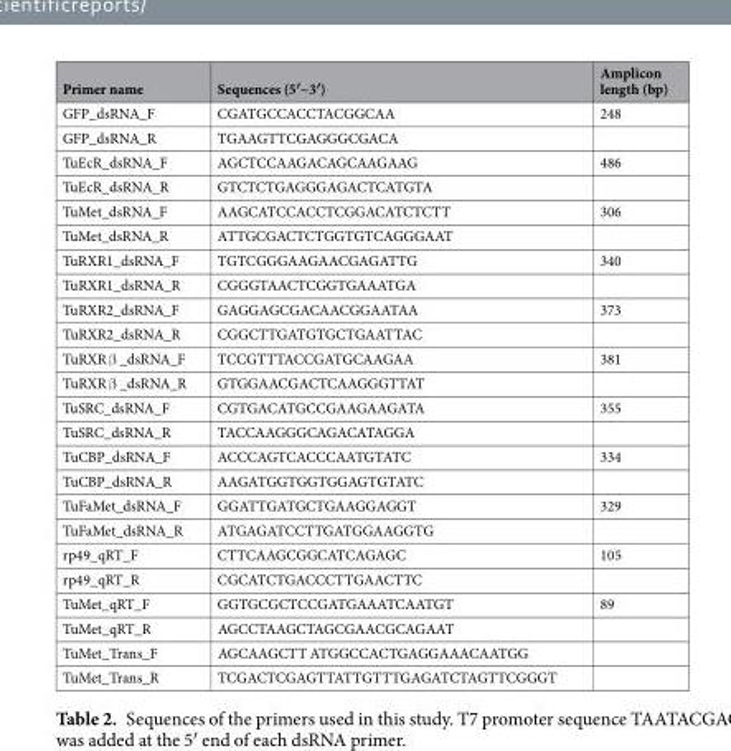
<table><thead><tr><td>Primer name</td><td>Sequences (5′~3′)</td><td>Amplicon length (bp)</td></tr></thead><tbody><tr><td>GFP_dsRNA_F</td><td>CGATGCCACCTACGGCAA</td><td>248</td></tr><tr><td>GFP_dsRNA_R</td><td>TGAAGTTCGAGGGCGACA</td><td></td></tr><tr><td>TuEcR_dsRNA_F</td><td>AGCTCCAAGACAGCAAGAAG</td><td>486</td></tr><tr><td>TuEcR_dsRNA_R</td><td>GTCTCTGAGGGAGACTCATGTA</td><td></td></tr><tr><td>TuMet_dsRNA_F</td><td>AAGCATCCACCTCGGACATCTCTT</td><td>306</td></tr><tr><td>TuMet_dsRNA_R</td><td>ATTGCGACTCTGGTGTCAGGGAAT</td><td></td></tr><tr><td>TuRXR1_dsRNA_F</td><td>TGTCGGGAAGAACGAGATTG</td><td>340</td></tr><tr><td>TuRXR1_dsRNA_R</td><td>CGGGTAACTCGGTGAAATGA</td><td></td></tr><tr><td>TuRXR2_dsRNA_F</td><td>GAGGAGCGACAACGGAATAA</td><td>373</td></tr><tr><td>TuRXR2_dsRNA_R</td><td>CGGCTTGATGTGCTGAATTAC</td><td></td></tr><tr><td>TuRXR β _dsRNA_F</td><td>TCCGTTTACCGATGCAAGAA</td><td>381</td></tr><tr><td>TuRXR β _dsRNA_R</td><td>GTGGAACGACTCAAGGGTTAT</td><td></td></tr><tr><td>TuSRC_dsRNA_F</td><td>CGTGACATGCCGAAGAAGATA</td><td>355</td></tr><tr><td>TuSRC_dsRNA_R</td><td>TACCAAGGGCAGACATAGGA</td><td></td></tr><tr><td>TuCBP_dsRNA_F</td><td>ACCCAGTCACCCAATGTATC</td><td>334</td></tr><tr><td>TuCBP_dsRNA_R</td><td>AAGATGGTGGTGGAGTGTATC</td><td></td></tr><tr><td>TuFaMet_dsRNA_F</td><td>GGATTGATGCTGAAGGAGGT</td><td>329</td></tr><tr><td>TuFaMet_dsRNA_R</td><td>ATGAGATCCTTGATGGAAGGTG</td><td></td></tr><tr><td>rp49_qRT_F</td><td>CTTCAAGCGGCATCAGAGC</td><td>105</td></tr><tr><td>rp49_qRT_R</td><td>CGCATCTGACCCTTGAACTTC</td><td></td></tr><tr><td>TuMet_qRT_F</td><td>GGTGCGCTCCGATGAAATCAATGT</td><td>89</td></tr><tr><td>TuMet_qRT_R</td><td>AGCCTAAGCTAGCGAACGCAGAAT</td><td></td></tr><tr><td>TuMet_Trans_F</td><td>AGCAAGCTT ATGGCCACTGAGGAAACAATGG</td><td></td></tr><tr><td>TuMet_Trans_R</td><td>TCGACTCGAGTTATTGTTTGAGATCTAGTTCGGGT</td><td></td></tr></tbody></table>